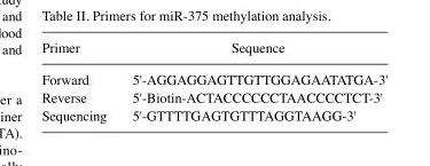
<table><thead><tr><td>Primer</td><td>Sequence</td></tr></thead><tbody><tr><td>Forward</td><td>5&#x27;-AGGAGGAGTTGTTGGAGAATATGA-3&#x27;</td></tr><tr><td>Reverse</td><td>5&#x27;-Biotin-ACTACCCCCCTAACCCCTCT-3&#x27;</td></tr><tr><td>Sequencing</td><td>5&#x27;-GTTTTGAGTGTTTAGGTAAGG-3&#x27;</td></tr></tbody></table>